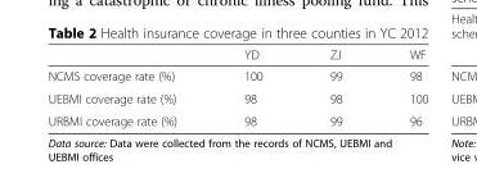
<table><thead><tr><td></td><td>YD</td><td>ZJ</td><td>WF</td></tr></thead><tbody><tr><td>NCMS coverage rate (%)</td><td>100</td><td>99</td><td>98</td></tr><tr><td>UEBMI coverage rate (%)</td><td>98</td><td>98</td><td>100</td></tr><tr><td>URBMI coverage rate (%)</td><td>98</td><td>99</td><td>96</td></tr></tbody></table>